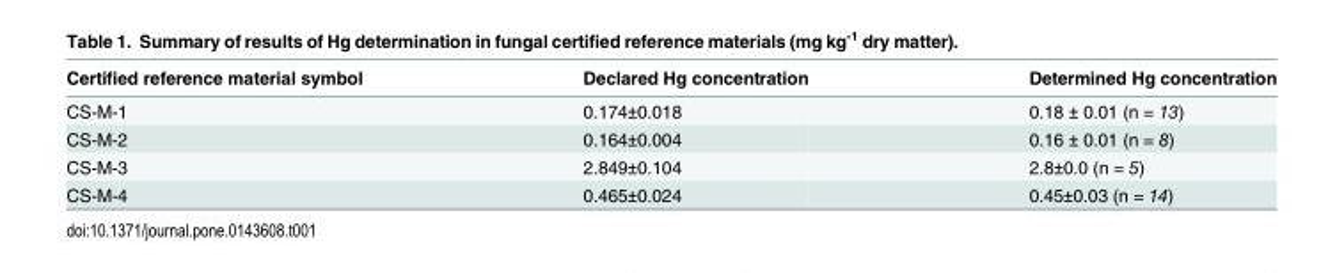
<table><thead><tr><td>Certified reference material symbol</td><td>Declared Hg concentration</td><td>Determined Hg concentration</td></tr></thead><tbody><tr><td>CS-M-1</td><td>0.174±0.018</td><td>0.18 ± 0.01 (n = 13)</td></tr><tr><td>CS-M-2</td><td>0.164±0.004</td><td>0.16 ± 0.01 (n = 8)</td></tr><tr><td>CS-M-3</td><td>2.849±0.104</td><td>2.8±0.0 (n = 5)</td></tr><tr><td>CS-M-4</td><td>0.465±0.024</td><td>0.45±0.03 (n = 14)</td></tr></tbody></table>